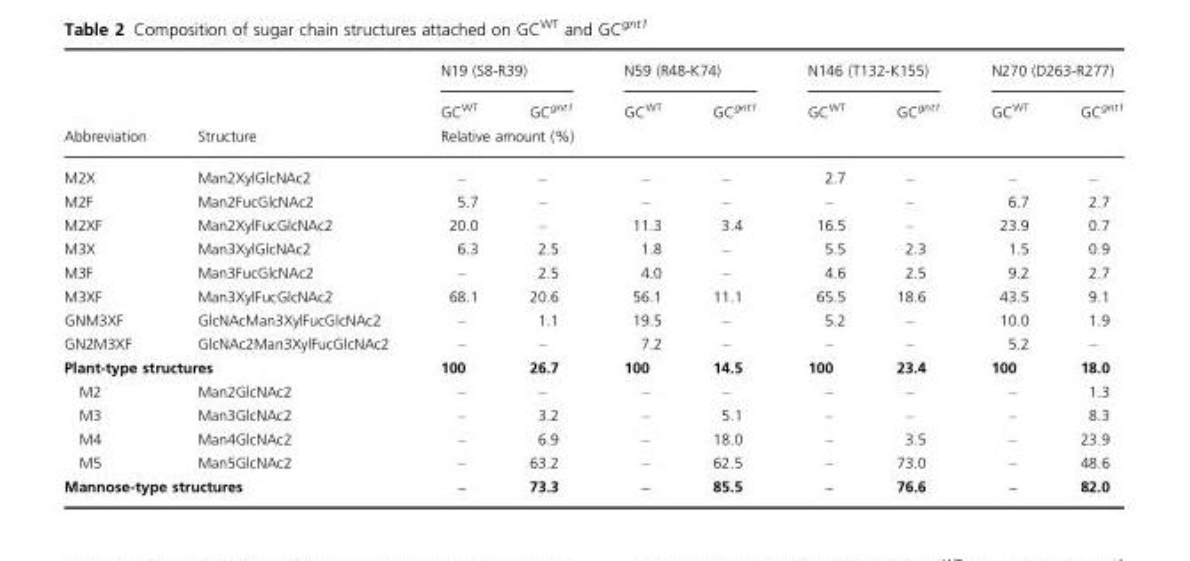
<table><thead><tr><td rowspan="3">Abbreviation</td><td rowspan="3">Structure</td><td colspan="2">N19 (S8-R39)</td><td colspan="2">N59 (R48-K74)</td><td colspan="2">N146 (T132-K155)</td><td colspan="2">N270 (D263-R277)</td></tr><tr><td>GC<sup>WT</sup></td><td>GC<sup>gnt1</sup></td><td>GC<sup>WT</sup></td><td>GC<sup>gnt1</sup></td><td>GC<sup>WT</sup></td><td>GC<sup>gnt1</sup></td><td>GC<sup>WT</sup></td><td>GC<sup>gnt1</sup></td></tr><tr><td colspan="8">Relative amount (%)</td></tr></thead><tbody><tr><td>M2X</td><td>Man2XylGlcNAc2</td><td>–</td><td>–</td><td>–</td><td>–</td><td>2.7</td><td>–</td><td>–</td><td>–</td></tr><tr><td>M2F</td><td>Man2FucGlcNAc2</td><td>5.7</td><td>–</td><td>–</td><td>–</td><td>–</td><td>–</td><td>6.7</td><td>2.7</td></tr><tr><td>M2XF</td><td>Man2XylFucGlcNAc2</td><td>20.0</td><td>–</td><td>11.3</td><td>3.4</td><td>16.5</td><td>–</td><td>23.9</td><td>0.7</td></tr><tr><td>M3X</td><td>Man3XylGlcNAc2</td><td>6.3</td><td>2.5</td><td>1.8</td><td>–</td><td>5.5</td><td>2.3</td><td>1.5</td><td>0.9</td></tr><tr><td>M3F</td><td>Man3FucGlcNAc2</td><td>–</td><td>2.5</td><td>4.0</td><td>–</td><td>4.6</td><td>2.5</td><td>9.2</td><td>2.7</td></tr><tr><td>M3XF</td><td>Man3XylFucGlcNAc2</td><td>68.1</td><td>20.6</td><td>56.1</td><td>11.1</td><td>65.5</td><td>18.6</td><td>43.5</td><td>9.1</td></tr><tr><td>GNM3XF</td><td>GlcNAcMan3XylFucGlcNAc2</td><td>–</td><td>1.1</td><td>19.5</td><td>–</td><td>5.2</td><td>–</td><td>10.0</td><td>1.9</td></tr><tr><td>GN2M3XF</td><td>GlcNAc2Man3XylFucGlcNAc2</td><td>–</td><td>–</td><td>7.2</td><td>–</td><td>–</td><td>–</td><td>5.2</td><td>–</td></tr><tr><td colspan="2">Plant-type structures</td><td>100</td><td>26.7</td><td>100</td><td>14.5</td><td>100</td><td>23.4</td><td>100</td><td>18.0</td></tr><tr><td>M2</td><td>Man2GlcNAc2</td><td>–</td><td>–</td><td>–</td><td>–</td><td>–</td><td>–</td><td>–</td><td>1.3</td></tr><tr><td>M3</td><td>Man3GlcNAc2</td><td>–</td><td>3.2</td><td>–</td><td>5.1</td><td>–</td><td>–</td><td>–</td><td>8.3</td></tr><tr><td>M4</td><td>Man4GlcNAc2</td><td>–</td><td>6.9</td><td>–</td><td>18.0</td><td>–</td><td>3.5</td><td>–</td><td>23.9</td></tr><tr><td>M5</td><td>Man5GlcNAc2</td><td>–</td><td>63.2</td><td>–</td><td>62.5</td><td>–</td><td>73.0</td><td>–</td><td>48.6</td></tr><tr><td colspan="2">Mannose-type structures</td><td>–</td><td>73.3</td><td>–</td><td>85.5</td><td>–</td><td>76.6</td><td>–</td><td>82.0</td></tr></tbody></table>